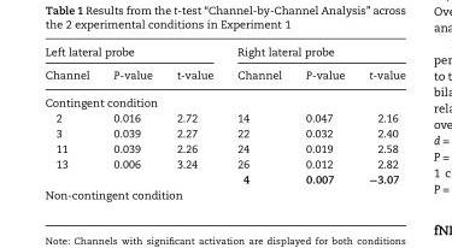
<table><thead><tr><td colspan="3">Left lateral probe</td><td colspan="3">Right lateral probe</td></tr><tr><td>Channel</td><td>P-value</td><td>t-value</td><td>Channel</td><td>P-value</td><td>t-value</td></tr></thead><tbody><tr><td colspan="6">Contingent condition</td></tr><tr><td>2</td><td>0.016</td><td>2.72</td><td>14</td><td>0.047</td><td>2.16</td></tr><tr><td>3</td><td>0.039</td><td>2.27</td><td>22</td><td>0.032</td><td>2.40</td></tr><tr><td>11</td><td>0.039</td><td>2.26</td><td>24</td><td>0.019</td><td>2.58</td></tr><tr><td rowspan="2">13</td><td>0.006</td><td>3.24</td><td>26</td><td>0.012</td><td>2.82</td></tr><tr><td></td><td></td><td>4</td><td>0.007</td><td>−3.07</td></tr><tr><td colspan="6">Non-contingent condition</td></tr></tbody></table>